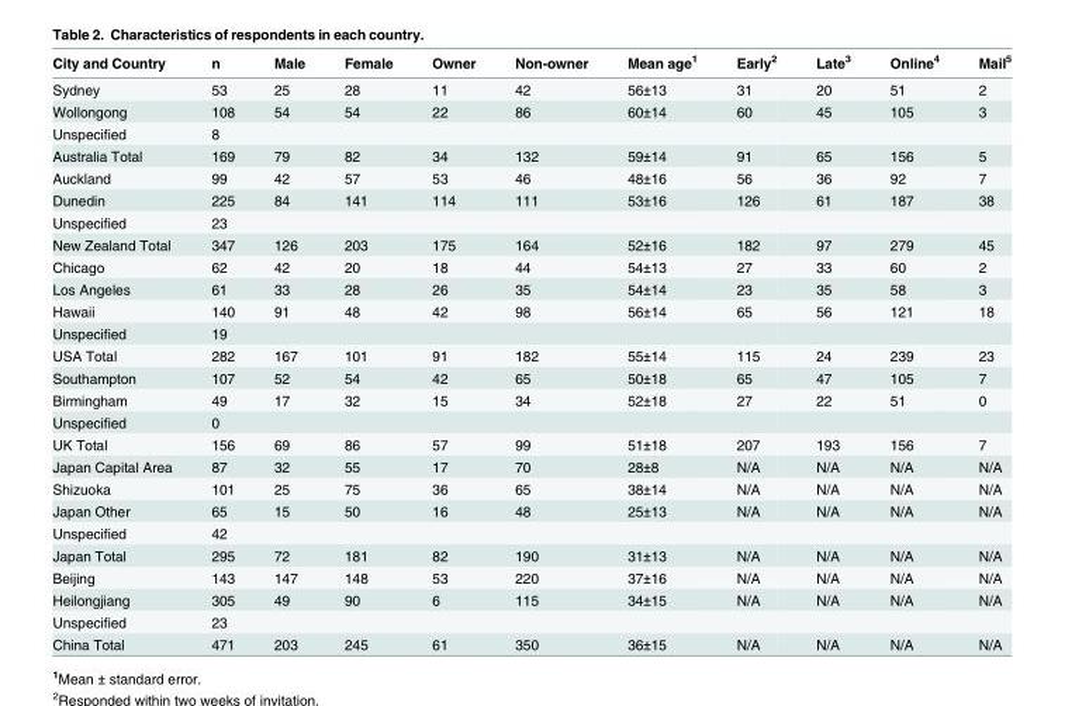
<table><thead><tr><td>City and Country</td><td>n</td><td>Male</td><td>Female</td><td>Owner</td><td>Non-owner</td><td>Mean age<sup>1</sup></td><td>Early<sup>2</sup></td><td>Late<sup>3</sup></td><td>Online<sup>4</sup></td><td>Mail<sup>5</sup></td></tr></thead><tbody><tr><td>Sydney</td><td>53</td><td>25</td><td>28</td><td>11</td><td>42</td><td>56±13</td><td>31</td><td>20</td><td>51</td><td>2</td></tr><tr><td>Wollongong</td><td>108</td><td>54</td><td>54</td><td>22</td><td>86</td><td>60±14</td><td>60</td><td>45</td><td>105</td><td>3</td></tr><tr><td>Unspecified</td><td>8</td><td></td><td></td><td></td><td></td><td></td><td></td><td></td><td></td><td></td></tr><tr><td>Australia Total</td><td>169</td><td>79</td><td>82</td><td>34</td><td>132</td><td>59±14</td><td>91</td><td>65</td><td>156</td><td>5</td></tr><tr><td>Auckland</td><td>99</td><td>42</td><td>57</td><td>53</td><td>46</td><td>48±16</td><td>56</td><td>36</td><td>92</td><td>7</td></tr><tr><td>Dunedin</td><td>225</td><td>84</td><td>141</td><td>114</td><td>111</td><td>53±16</td><td>126</td><td>61</td><td>187</td><td>38</td></tr><tr><td>Unspecified</td><td>23</td><td></td><td></td><td></td><td></td><td></td><td></td><td></td><td></td><td></td></tr><tr><td>New Zealand Total</td><td>347</td><td>126</td><td>203</td><td>175</td><td>164</td><td>52±16</td><td>182</td><td>97</td><td>279</td><td>45</td></tr><tr><td>Chicago</td><td>62</td><td>42</td><td>20</td><td>18</td><td>44</td><td>54±13</td><td>27</td><td>33</td><td>60</td><td>2</td></tr><tr><td>Los Angeles</td><td>61</td><td>33</td><td>28</td><td>26</td><td>35</td><td>54±14</td><td>23</td><td>35</td><td>58</td><td>3</td></tr><tr><td>Hawaii</td><td>140</td><td>91</td><td>48</td><td>42</td><td>98</td><td>56±14</td><td>65</td><td>56</td><td>121</td><td>18</td></tr><tr><td>Unspecified</td><td>19</td><td></td><td></td><td></td><td></td><td></td><td></td><td></td><td></td><td></td></tr><tr><td>USA Total</td><td>282</td><td>167</td><td>101</td><td>91</td><td>182</td><td>55±14</td><td>115</td><td>24</td><td>239</td><td>23</td></tr><tr><td>Southampton</td><td>107</td><td>52</td><td>54</td><td>42</td><td>65</td><td>50±18</td><td>65</td><td>47</td><td>105</td><td>7</td></tr><tr><td>Birmingham</td><td>49</td><td>17</td><td>32</td><td>15</td><td>34</td><td>52±18</td><td>27</td><td>22</td><td>51</td><td>0</td></tr><tr><td>Unspecified</td><td>0</td><td></td><td></td><td></td><td></td><td></td><td></td><td></td><td></td><td></td></tr><tr><td>UK Total</td><td>156</td><td>69</td><td>86</td><td>57</td><td>99</td><td>51±18</td><td>207</td><td>193</td><td>156</td><td>7</td></tr><tr><td>Japan Capital Area</td><td>87</td><td>32</td><td>55</td><td>17</td><td>70</td><td>28±8</td><td>N/A</td><td>N/A</td><td>N/A</td><td>N/A</td></tr><tr><td>Shizuoka</td><td>101</td><td>25</td><td>75</td><td>36</td><td>65</td><td>38±14</td><td>N/A</td><td>N/A</td><td>N/A</td><td>N/A</td></tr><tr><td>Japan Other</td><td>65</td><td>15</td><td>50</td><td>16</td><td>48</td><td>25±13</td><td>N/A</td><td>N/A</td><td>N/A</td><td>N/A</td></tr><tr><td>Unspecified</td><td>42</td><td></td><td></td><td></td><td></td><td></td><td></td><td></td><td></td><td></td></tr><tr><td>Japan Total</td><td>295</td><td>72</td><td>181</td><td>82</td><td>190</td><td>31±13</td><td>N/A</td><td>N/A</td><td>N/A</td><td>N/A</td></tr><tr><td>Beijing</td><td>143</td><td>147</td><td>148</td><td>53</td><td>220</td><td>37±16</td><td>N/A</td><td>N/A</td><td>N/A</td><td>N/A</td></tr><tr><td>Heilongjiang</td><td>305</td><td>49</td><td>90</td><td>6</td><td>115</td><td>34±15</td><td>N/A</td><td>N/A</td><td>N/A</td><td>N/A</td></tr><tr><td>Unspecified</td><td>23</td><td></td><td></td><td></td><td></td><td></td><td></td><td></td><td></td><td></td></tr><tr><td>China Total</td><td>471</td><td>203</td><td>245</td><td>61</td><td>350</td><td>36±15</td><td>N/A</td><td>N/A</td><td>N/A</td><td>N/A</td></tr></tbody></table>